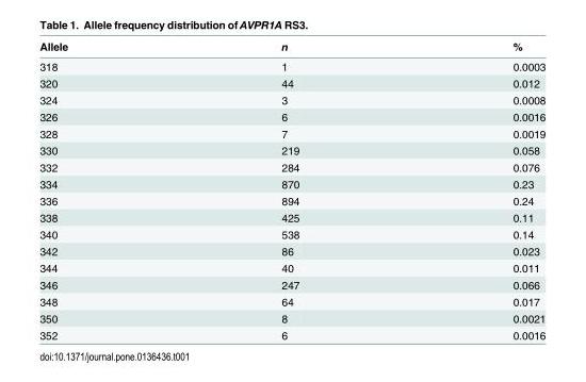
<table><thead><tr><td>Allele</td><td>n</td><td>%</td></tr></thead><tbody><tr><td>318</td><td>1</td><td>0.0003</td></tr><tr><td>320</td><td>44</td><td>0.012</td></tr><tr><td>324</td><td>3</td><td>0.0008</td></tr><tr><td>326</td><td>6</td><td>0.0016</td></tr><tr><td>328</td><td>7</td><td>0.0019</td></tr><tr><td>330</td><td>219</td><td>0.058</td></tr><tr><td>332</td><td>284</td><td>0.076</td></tr><tr><td>334</td><td>870</td><td>0.23</td></tr><tr><td>336</td><td>894</td><td>0.24</td></tr><tr><td>338</td><td>425</td><td>0.11</td></tr><tr><td>340</td><td>538</td><td>0.14</td></tr><tr><td>342</td><td>86</td><td>0.023</td></tr><tr><td>344</td><td>40</td><td>0.011</td></tr><tr><td>346</td><td>247</td><td>0.066</td></tr><tr><td>348</td><td>64</td><td>0.017</td></tr><tr><td>350</td><td>8</td><td>0.0021</td></tr><tr><td>352</td><td>6</td><td>0.0016</td></tr></tbody></table>